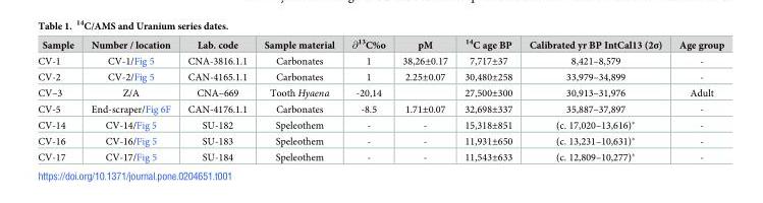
<table><thead><tr><td>Sample</td><td>Number / location</td><td>Lab. code</td><td>Sample material</td><td>∂<sup>13</sup>C%o</td><td>pM</td><td><sup>14</sup>C age BP</td><td>Calibrated yr BP IntCal13 (2σ)</td><td>Age group</td></tr></thead><tbody><tr><td>CV-1</td><td>CV-1/Fig 5</td><td>CNA-3816.1.1</td><td>Carbonates</td><td>1</td><td>38,26±0.17</td><td>7,717±37</td><td>8,421–8,579</td><td>-</td></tr><tr><td>CV-2</td><td>CV-2/Fig 5</td><td>CAN-4165.1.1</td><td>Carbonates</td><td>1</td><td>2.25±0.07</td><td>30,480±258</td><td>33,979–34,899</td><td>-</td></tr><tr><td>CV–3</td><td>Z/A</td><td>CNA–669</td><td>Tooth Hyaena</td><td>-20,14</td><td></td><td>27,500±300</td><td>30,913–31,976</td><td>Adult</td></tr><tr><td>CV-5</td><td>End-scraper/Fig 6F</td><td>CAN-4176.1.1</td><td>Carbonates</td><td>-8.5</td><td>1.71±0.07</td><td>32,698±337</td><td>35,887–37,897</td><td>-</td></tr><tr><td>CV-14</td><td>CV-14/Fig 5</td><td>SU-182</td><td>Speleothem</td><td>-</td><td>-</td><td>15,318±851</td><td>(c. 17,020–13,616)*</td><td>-</td></tr><tr><td>CV-16</td><td>CV-16/Fig 5</td><td>SU-183</td><td>Speleothem</td><td>-</td><td>-</td><td>11,931±650</td><td>(c. 13,231–10,631)*</td><td>-</td></tr><tr><td>CV-17</td><td>CV-17/Fig 5</td><td>SU-184</td><td>Speleothem</td><td>-</td><td>-</td><td>11,543±633</td><td>(c. 12,809–10,277)*</td><td>-</td></tr></tbody></table>